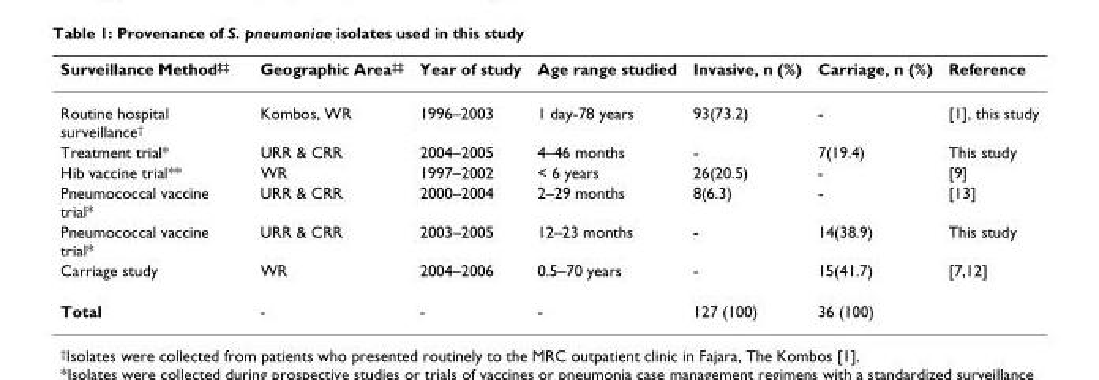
<table><thead><tr><td>Surveillance Method<sup>‡‡</sup></td><td>Geographic Area<sup>‡‡</sup></td><td>Year of study</td><td>Age range studied</td><td>Invasive, n (%)</td><td>Carriage, n (%)</td><td>Reference</td></tr></thead><tbody><tr><td>Routine hospital surveillance<sup>†</sup></td><td>Kombos, WR</td><td>1996–2003</td><td>1 day-78 years</td><td>93(73.2)</td><td>-</td><td>[1], this study</td></tr><tr><td>Treatment trial*</td><td>URR &amp; CRR</td><td>2004–2005</td><td>4–46 months</td><td>-</td><td>7(19.4)</td><td>This study</td></tr><tr><td>Hib vaccine trial**</td><td>WR</td><td>1997–2002</td><td>&lt; 6 years</td><td>26(20.5)</td><td>-</td><td>[9]</td></tr><tr><td>Pneumococcal vaccine trial*</td><td>URR &amp; CRR</td><td>2000–2004</td><td>2–29 months</td><td>8(6.3)</td><td>-</td><td>[13]</td></tr><tr><td>Pneumococcal vaccine trial*</td><td>URR &amp; CRR</td><td>2003–2005</td><td>12–23 months</td><td>-</td><td>14(38.9)</td><td>This study</td></tr><tr><td>Carriage study</td><td>WR</td><td>2004–2006</td><td>0.5–70 years</td><td>-</td><td>15(41.7)</td><td>[7,12]</td></tr><tr><td>Total</td><td>-</td><td>-</td><td>-</td><td>127 (100)</td><td>36 (100)</td><td></td></tr></tbody></table>